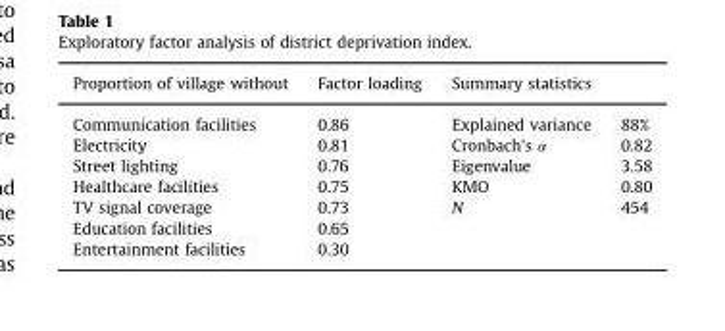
<table><thead><tr><td rowspan="2">Proportion of village without Communication facilities</td><td rowspan="2">Factor loading 0.86</td><td colspan="2">Summary statistics</td></tr><tr><td>Explained variance</td><td>88%</td></tr></thead><tbody><tr><td>Electricity</td><td>0.81</td><td>Cronbach&#x27;s α</td><td>0.82</td></tr><tr><td>Street lighting</td><td>0.76</td><td>Eigenvalue</td><td>3.58</td></tr><tr><td>Healthcare facilities</td><td>0.75</td><td>KMO</td><td>0.80</td></tr><tr><td>TV signal coverage</td><td>0.73</td><td>N</td><td>454</td></tr><tr><td>Education facilities</td><td>0.65</td><td></td><td></td></tr><tr><td>Entertainment facilities</td><td>0.30</td><td></td><td></td></tr></tbody></table>